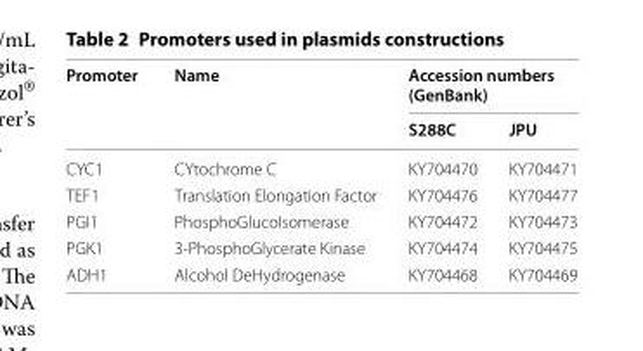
<table><thead><tr><td rowspan="2">Promoter</td><td rowspan="2">Name</td><td colspan="2">Accession numbers (GenBank)</td></tr><tr><td>S288C</td><td>JPU</td></tr></thead><tbody><tr><td>CYC1</td><td>CYtochrome C</td><td>KY704470</td><td>KY704471</td></tr><tr><td>TEF1</td><td>Translation Elongation Factor</td><td>KY704476</td><td>KY704477</td></tr><tr><td>PGI1</td><td>PhosphoGlucoIsomerase</td><td>KY704472</td><td>KY704473</td></tr><tr><td>PGK1</td><td>3-PhosphoGlycerate Kinase</td><td>KY704474</td><td>KY704475</td></tr><tr><td>ADH1</td><td>Alcohol DeHydrogenase</td><td>KY704468</td><td>KY704469</td></tr></tbody></table>